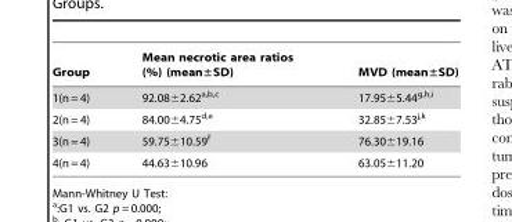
<table><thead><tr><td>Group</td><td>Mean necrotic area ratios (%) (mean±SD)</td><td>MVD (mean±SD)</td></tr></thead><tbody><tr><td>1(n = 4)</td><td>92.08±2.62<sup>a,</sup>b<sup>,</sup>c</td><td>17.95±5.44<sup>g,</sup>h<sup>,</sup>i</td></tr><tr><td>2(n = 4)</td><td>84.00±4.75<sup>d,</sup>e</td><td>32.85±7.53<sup>j,</sup>k</td></tr><tr><td>3(n = 4)</td><td>59.75±10.59<sup>f</sup></td><td>76.30±19.16</td></tr><tr><td>4(n = 4)</td><td>44.63±10.96</td><td>63.05±11.20</td></tr></tbody></table>